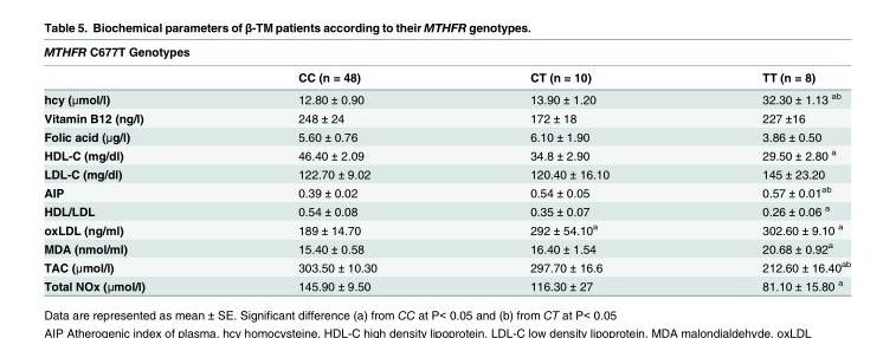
<table><thead><tr><td colspan="4">MTHFR C677T Genotypes</td></tr><tr><td></td><td>CC (n = 48)</td><td>CT (n = 10)</td><td>TT (n = 8)</td></tr></thead><tbody><tr><td>hcy (μmol/l)</td><td>12.80 ± 0.90</td><td>13.90 ± 1.20</td><td>32.30 ± 1.13 <sup>ab</sup></td></tr><tr><td>Vitamin B12 (ng/l)</td><td>248 ± 24</td><td>172 ± 18</td><td>227 ±16</td></tr><tr><td>Folic acid (μg/l)</td><td>5.60 ± 0.76</td><td>6.10 ± 1.90</td><td>3.86 ± 0.50</td></tr><tr><td>HDL-C (mg/dl)</td><td>46.40 ± 2.09</td><td>34.8 ± 2.90</td><td>29.50 ± 2.80 <sup>a</sup></td></tr><tr><td>LDL-C (mg/dl)</td><td>122.70 ± 9.02</td><td>120.40 ± 16.10</td><td>145 ± 23.20</td></tr><tr><td>AIP</td><td>0.39 ± 0.02</td><td>0.54 ± 0.05</td><td>0.57 ± 0.01<sup>ab</sup></td></tr><tr><td>HDL/LDL</td><td>0.54 ± 0.08</td><td>0.35 ± 0.07</td><td>0.26 ± 0.06 <sup>a</sup></td></tr><tr><td>oxLDL (ng/ml)</td><td>189 ± 14.70</td><td>292 ± 54.10<sup>a</sup></td><td>302.60 ± 9.10 <sup>a</sup></td></tr><tr><td>MDA (nmol/ml)</td><td>15.40 ± 0.58</td><td>16.40 ± 1.54</td><td>20.68 ± 0.92<sup>a</sup></td></tr><tr><td>TAC (μmol/l)</td><td>303.50 ± 10.30</td><td>297.70 ± 16.6</td><td>212.60 ± 16.40<sup>ab</sup></td></tr><tr><td>Total NOx (μmol/l)</td><td>145.90 ± 9.50</td><td>116.30 ± 27</td><td>81.10 ± 15.80 <sup>a</sup></td></tr></tbody></table>